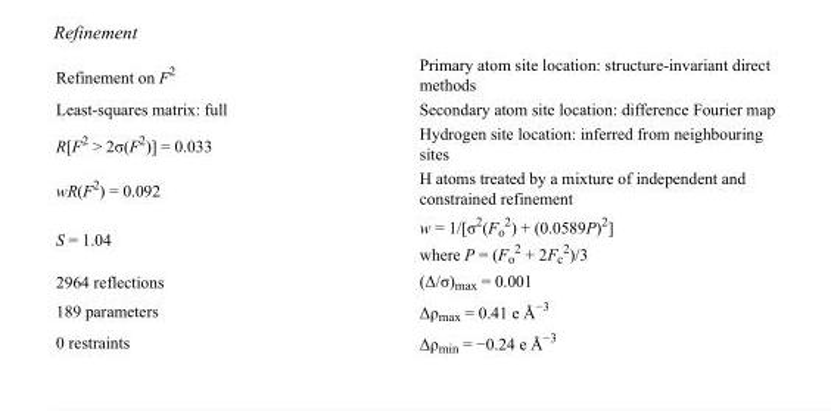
<table><tbody><tr><td>Refinement on F<sup>2</sup></td><td>Primary atom site location: structure-invariant direct methods</td></tr><tr><td>Least-squares matrix: full</td><td>Secondary atom site location: difference Fourier map</td></tr><tr><td>R[F<sup>2</sup> &gt; 2σ(F<sup>2</sup>)] = 0.033</td><td>Hydrogen site location: inferred from neighbouring sites</td></tr><tr><td>wR(F<sup>2</sup>) = 0.092</td><td>H atoms treated by a mixture of independent and constrained refinement</td></tr><tr><td>S = 1.04</td><td>w = 1/[σ<sup>2</sup>(F<sub>o</sub> <sup>2</sup>) + (0.0589P)<sup>2</sup>] where P = (F<sub>o</sub> <sup>2</sup> + 2F<sub>c</sub> <sup>2</sup>)/3</td></tr><tr><td>2964 reflections</td><td>(Δ/σ)<sub>max</sub> = 0.001</td></tr><tr><td>189 parameters</td><td>Δρ<sub>max</sub> = 0.41 e Å<sup>−3</sup></td></tr><tr><td>0 restraints</td><td>Δρ<sub>min</sub> = −0.24 e Å<sup>−3</sup></td></tr></tbody></table>